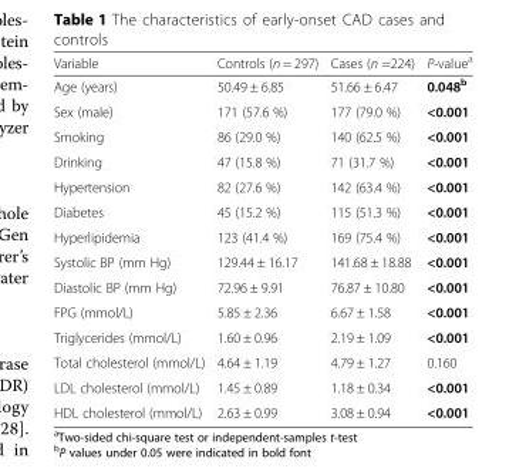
<table><thead><tr><td>Variable</td><td>Controls (n = 297)</td><td>Cases (n =224)</td><td>P-value<sup>a</sup></td></tr></thead><tbody><tr><td>Age (years)</td><td>50.49 ± 6.85</td><td>51.66 ± 6.47</td><td>0.048<sup>b</sup></td></tr><tr><td>Sex (male)</td><td>171 (57.6 %)</td><td>177 (79.0 %)</td><td>&lt;0.001</td></tr><tr><td>Smoking</td><td>86 (29.0 %)</td><td>140 (62.5 %)</td><td>&lt;0.001</td></tr><tr><td>Drinking</td><td>47 (15.8 %)</td><td>71 (31.7 %)</td><td>&lt;0.001</td></tr><tr><td>Hypertension</td><td>82 (27.6 %)</td><td>142 (63.4 %)</td><td>&lt;0.001</td></tr><tr><td>Diabetes</td><td>45 (15.2 %)</td><td>115 (51.3 %)</td><td>&lt;0.001</td></tr><tr><td>Hyperlipidemia</td><td>123 (41.4 %)</td><td>169 (75.4 %)</td><td>&lt;0.001</td></tr><tr><td>Systolic BP (mm Hg)</td><td>129.44 ± 16.17</td><td>141.68 ± 18.88</td><td>&lt;0.001</td></tr><tr><td>Diastolic BP (mm Hg)</td><td>72.96 ± 9.91</td><td>76.87 ± 10.80</td><td>&lt;0.001</td></tr><tr><td>FPG (mmol/L)</td><td>5.85 ± 2.36</td><td>6.67 ± 1.58</td><td>&lt;0.001</td></tr><tr><td>Triglycerides (mmol/L)</td><td>1.60 ± 0.96</td><td>2.19 ± 1.09</td><td>&lt;0.001</td></tr><tr><td>Total cholesterol (mmol/L)</td><td>4.64 ± 1.19</td><td>4.79 ± 1.27</td><td>0.160</td></tr><tr><td>LDL cholesterol (mmol/L)</td><td>1.45 ± 0.89</td><td>1.18 ± 0.34</td><td>&lt;0.001</td></tr><tr><td>HDL cholesterol (mmol/L)</td><td>2.63 ± 0.99</td><td>3.08 ± 0.94</td><td>&lt;0.001</td></tr></tbody></table>